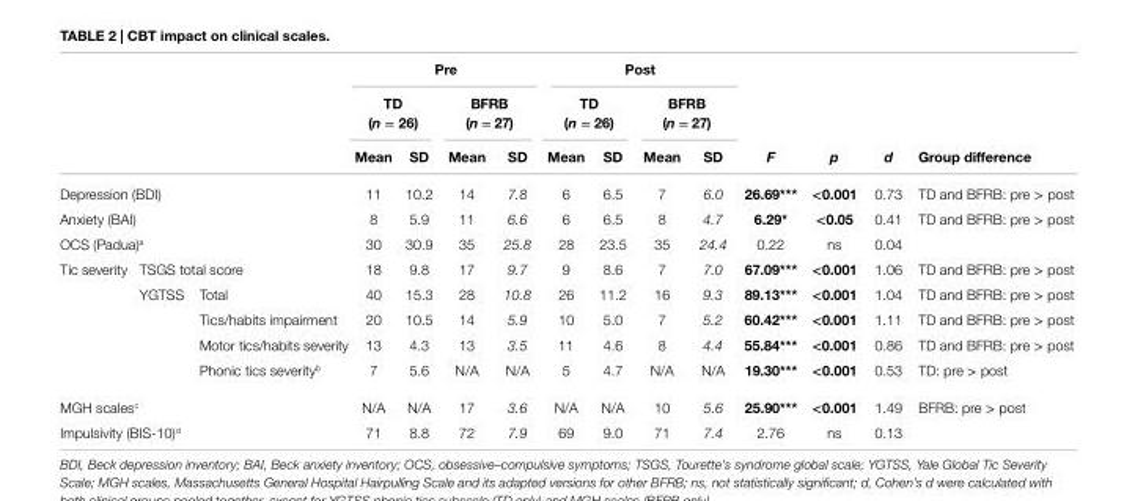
<table><thead><tr><td rowspan="3"></td><td rowspan="3"></td><td rowspan="3"></td><td colspan="4">Pre</td><td colspan="4">Post</td><td rowspan="3">F</td><td rowspan="3">p</td><td rowspan="3">d</td><td rowspan="3">group difference</td></tr><tr><td colspan="2">TD (n = 26)</td><td colspan="2">BFrB (n = 27)</td><td colspan="2">TD (n = 26)</td><td colspan="2">BFrB (n = 27)</td></tr><tr><td>Mean</td><td>sD</td><td>Mean</td><td>sD</td><td>Mean</td><td>sD</td><td>Mean</td><td>sD</td></tr></thead><tbody><tr><td colspan="3">Depression (BDI)</td><td>11</td><td>10.2</td><td>14</td><td>7.8</td><td>6</td><td>6.5</td><td>7</td><td>6.0</td><td>26.69***</td><td>&lt;0.001</td><td>0.73</td><td>TD and BFRB: pre &gt; post</td></tr><tr><td colspan="3">Anxiety (BAI)</td><td>8</td><td>5.9</td><td>11</td><td>6.6</td><td>6</td><td>6.5</td><td>8</td><td>4.7</td><td>6.29*</td><td>&lt;0.05</td><td>0.41</td><td>TD and BFRB: pre &gt; post</td></tr><tr><td colspan="3">OCS (Padua)<sup>a</sup></td><td>30</td><td>30.9</td><td>35</td><td>25.8</td><td>28</td><td>23.5</td><td>35</td><td>24.4</td><td>0.22</td><td>ns</td><td>0.04</td><td></td></tr><tr><td rowspan="5">Tic severity</td><td colspan="2">TSGS total score</td><td>18</td><td>9.8</td><td>17</td><td>9.7</td><td>9</td><td>8.6</td><td>7</td><td>7.0</td><td>67.09***</td><td>&lt;0.001</td><td>1.06</td><td>TD and BFRB: pre &gt; post</td></tr><tr><td rowspan="4">YGTSS</td><td>Total</td><td>40</td><td>15.3</td><td>28</td><td>10.8</td><td>26</td><td>11.2</td><td>16</td><td>9.3</td><td>89.13***</td><td>&lt;0.001</td><td>1.04</td><td>TD and BFRB: pre &gt; post</td></tr><tr><td>Tics/habits impairment</td><td>20</td><td>10.5</td><td>14</td><td>5.9</td><td>10</td><td>5.0</td><td>7</td><td>5.2</td><td>60.42***</td><td>&lt;0.001</td><td>1.11</td><td>TD and BFRB: pre &gt; post</td></tr><tr><td>Motor tics/habits severity</td><td>13</td><td>4.3</td><td>13</td><td>3.5</td><td>11</td><td>4.6</td><td>8</td><td>4.4</td><td>55.84***</td><td>&lt;0.001</td><td>0.86</td><td>TD and BFRB: pre &gt; post</td></tr><tr><td>Phonic tics severity<sup>b</sup></td><td>7</td><td>5.6</td><td>N/A</td><td>N/A</td><td>5</td><td>4.7</td><td>N/A</td><td>N/A</td><td>19.30***</td><td>&lt;0.001</td><td>0.53</td><td>TD: pre &gt; post</td></tr><tr><td colspan="3">MGH scales<sup>c</sup></td><td>N/A</td><td>N/A</td><td>17</td><td>3.6</td><td>N/A</td><td>N/A</td><td>10</td><td>5.6</td><td>25.90***</td><td>&lt;0.001</td><td>1.49</td><td>BFRB: pre &gt; post</td></tr><tr><td colspan="3">Impulsivity (BIS-10)<sup>d</sup></td><td>71</td><td>8.8</td><td>72</td><td>7.9</td><td>69</td><td>9.0</td><td>71</td><td>7.4</td><td>2.76</td><td>ns</td><td>0.13</td><td></td></tr></tbody></table>